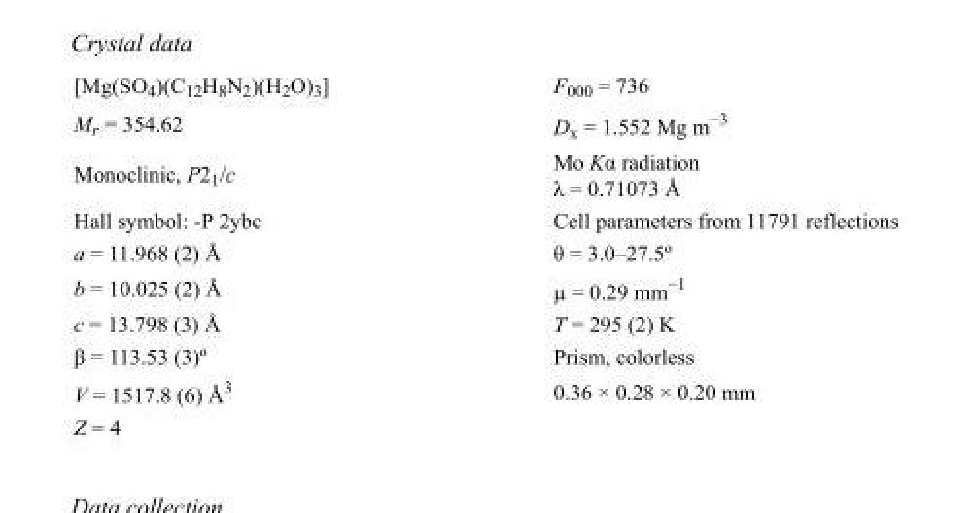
<table><tbody><tr><td>[Mg(SO<sub>4</sub>)(C<sub>12</sub>H<sub>8</sub>N<sub>2</sub>)(H<sub>2</sub>O)<sub>3</sub>]</td><td>F<sub>000</sub> = 736</td></tr><tr><td>M<sub>r</sub> = 354.62</td><td>D<sub>x</sub> = 1.552 Mg m<sup>−3</sup></td></tr><tr><td>Monoclinic, P2<sub>1</sub>/c</td><td>Mo Kα radiation λ = 0.71073 Å</td></tr><tr><td>Hall symbol: -P 2ybc</td><td>Cell parameters from 11791 reflections</td></tr><tr><td>a = 11.968 (2) Å</td><td>θ = 3.0–27.5º</td></tr><tr><td>b = 10.025 (2) Å</td><td>µ = 0.29 mm<sup>−1</sup></td></tr><tr><td>c = 13.798 (3) Å</td><td>T = 295 (2) K</td></tr><tr><td>β = 113.53 (3)º</td><td>Prism, colorless</td></tr><tr><td>V = 1517.8 (6) Å<sup>3</sup></td><td>0.36 × 0.28 × 0.20 mm</td></tr><tr><td>Z = 4</td><td></td></tr></tbody></table>